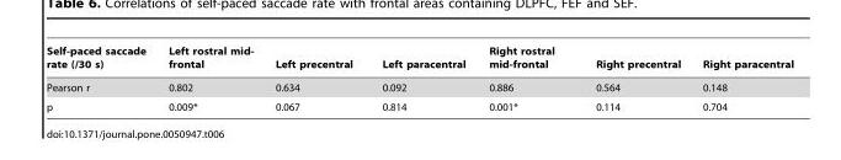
<table><thead><tr><td>Self-paced saccade rate (/30 s)</td><td>Left rostral mid- frontal</td><td>Left precentral</td><td>Left paracentral</td><td>Right rostral mid-frontal</td><td>Right precentral</td><td>Right paracentral</td></tr></thead><tbody><tr><td>Pearson r</td><td>0.802</td><td>0.634</td><td>0.092</td><td>0.886</td><td>0.564</td><td>0.148</td></tr><tr><td>p</td><td>0.009*</td><td>0.067</td><td>0.814</td><td>0.001*</td><td>0.114</td><td>0.704</td></tr></tbody></table>